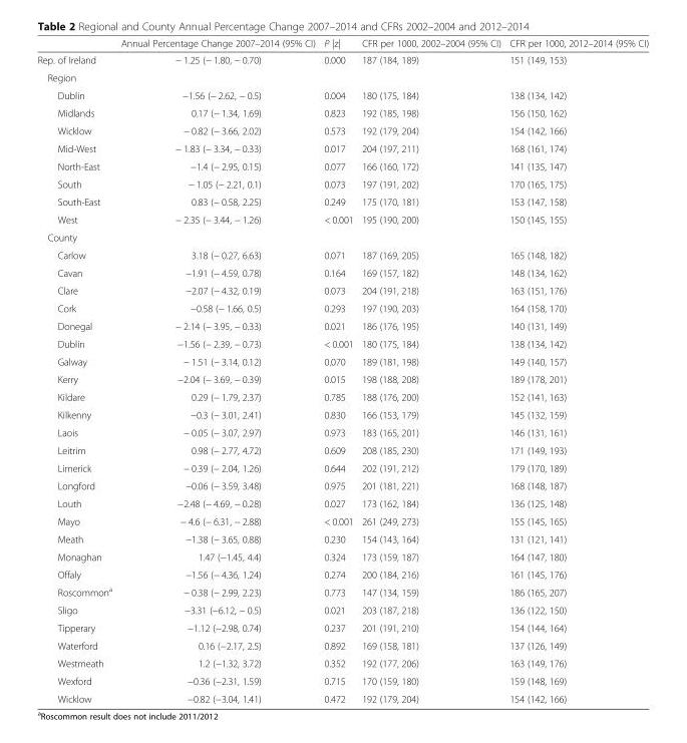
<table><thead><tr><td></td><td>Annual Percentage Change 2007–2014 (95% CI)</td><td>P |z|</td><td>CFR per 1000, 2002–2004 (95% CI)</td><td>CFR per 1000, 2012–2014 (95% CI)</td></tr></thead><tbody><tr><td>Rep. of Ireland</td><td>− 1.25 (− 1.80, − 0.70)</td><td>0.000</td><td>187 (184, 189)</td><td>151 (149, 153)</td></tr><tr><td colspan="5">Region</td></tr><tr><td>Dublin</td><td>−1.56 (− 2.62, − 0.5)</td><td>0.004</td><td>180 (175, 184)</td><td>138 (134, 142)</td></tr><tr><td>Midlands</td><td>0.17 (− 1.34, 1.69)</td><td>0.823</td><td>192 (185, 198)</td><td>156 (150, 162)</td></tr><tr><td>Wicklow</td><td>− 0.82 (− 3.66, 2.02)</td><td>0.573</td><td>192 (179, 204)</td><td>154 (142, 166)</td></tr><tr><td>Mid-West</td><td>− 1.83 (− 3.34, − 0.33)</td><td>0.017</td><td>204 (197, 211)</td><td>168 (161, 174)</td></tr><tr><td>North-East</td><td>−1.4 (− 2.95, 0.15)</td><td>0.077</td><td>166 (160, 172)</td><td>141 (135, 147)</td></tr><tr><td>South</td><td>− 1.05 (− 2.21, 0.1)</td><td>0.073</td><td>197 (191, 202)</td><td>170 (165, 175)</td></tr><tr><td>South-East</td><td>0.83 (− 0.58, 2.25)</td><td>0.249</td><td>175 (170, 181)</td><td>153 (147, 158)</td></tr><tr><td>West</td><td>− 2.35 (− 3.44, − 1.26)</td><td>&lt; 0.001</td><td>195 (190, 200)</td><td>150 (145, 155)</td></tr><tr><td colspan="5">County</td></tr><tr><td>Carlow</td><td>3.18 (− 0.27, 6.63)</td><td>0.071</td><td>187 (169, 205)</td><td>165 (148, 182)</td></tr><tr><td>Cavan</td><td>−1.91 (− 4.59, 0.78)</td><td>0.164</td><td>169 (157, 182)</td><td>148 (134, 162)</td></tr><tr><td>Clare</td><td>−2.07 (− 4.32, 0.19)</td><td>0.073</td><td>204 (191, 218)</td><td>163 (151, 176)</td></tr><tr><td>Cork</td><td>−0.58 (− 1.66, 0.5)</td><td>0.293</td><td>197 (190, 203)</td><td>164 (158, 170)</td></tr><tr><td>Donegal</td><td>− 2.14 (− 3.95, − 0.33)</td><td>0.021</td><td>186 (176, 195)</td><td>140 (131, 149)</td></tr><tr><td>Dublin</td><td>−1.56 (− 2.39, − 0.73)</td><td>&lt; 0.001</td><td>180 (175, 184)</td><td>138 (134, 142)</td></tr><tr><td>Galway</td><td>− 1.51 (− 3.14, 0.12)</td><td>0.070</td><td>189 (181, 198)</td><td>149 (140, 157)</td></tr><tr><td>Kerry</td><td>−2.04 (− 3.69, − 0.39)</td><td>0.015</td><td>198 (188, 208)</td><td>189 (178, 201)</td></tr><tr><td>Kildare</td><td>0.29 (− 1.79, 2.37)</td><td>0.785</td><td>188 (176, 200)</td><td>152 (141, 163)</td></tr><tr><td>Kilkenny</td><td>−0.3 (− 3.01, 2.41)</td><td>0.830</td><td>166 (153, 179)</td><td>145 (132, 159)</td></tr><tr><td>Laois</td><td>− 0.05 (− 3.07, 2.97)</td><td>0.973</td><td>183 (165, 201)</td><td>146 (131, 161)</td></tr><tr><td>Leitrim</td><td>0.98 (− 2.77, 4.72)</td><td>0.609</td><td>208 (185, 230)</td><td>171 (149, 193)</td></tr><tr><td>Limerick</td><td>− 0.39 (− 2.04, 1.26)</td><td>0.644</td><td>202 (191, 212)</td><td>179 (170, 189)</td></tr><tr><td>Longford</td><td>−0.06 (− 3.59, 3.48)</td><td>0.975</td><td>201 (181, 221)</td><td>168 (148, 187)</td></tr><tr><td>Louth</td><td>−2.48 (− 4.69, − 0.28)</td><td>0.027</td><td>173 (162, 184)</td><td>136 (125, 148)</td></tr><tr><td>Mayo</td><td>− 4.6 (− 6.31, − 2.88)</td><td>&lt; 0.001</td><td>261 (249, 273)</td><td>155 (145, 165)</td></tr><tr><td>Meath</td><td>−1.38 (− 3.65, 0.88)</td><td>0.230</td><td>154 (143, 164)</td><td>131 (121, 141)</td></tr><tr><td>Monaghan</td><td>1.47 (−1.45, 4.4)</td><td>0.324</td><td>173 (159, 187)</td><td>164 (147, 180)</td></tr><tr><td>Offaly</td><td>−1.56 (− 4.36, 1.24)</td><td>0.274</td><td>200 (184, 216)</td><td>161 (145, 176)</td></tr><tr><td>Roscommon<sup>a</sup></td><td>− 0.38 (− 2.99, 2.23)</td><td>0.773</td><td>147 (134, 159)</td><td>186 (165, 207)</td></tr><tr><td>Sligo</td><td>−3.31 (−6.12, − 0.5)</td><td>0.021</td><td>203 (187, 218)</td><td>136 (122, 150)</td></tr><tr><td>Tipperary</td><td>−1.12 (−2.98, 0.74)</td><td>0.237</td><td>201 (191, 210)</td><td>154 (144, 164)</td></tr><tr><td>Waterford</td><td>0.16 (−2.17, 2.5)</td><td>0.892</td><td>169 (158, 181)</td><td>137 (126, 149)</td></tr><tr><td>Westmeath</td><td>1.2 (−1.32, 3.72)</td><td>0.352</td><td>192 (177, 206)</td><td>163 (149, 176)</td></tr><tr><td>Wexford</td><td>−0.36 (−2.31, 1.59)</td><td>0.715</td><td>170 (159, 180)</td><td>159 (148, 169)</td></tr><tr><td>Wicklow</td><td>−0.82 (−3.04, 1.41)</td><td>0.472</td><td>192 (179, 204)</td><td>154 (142, 166)</td></tr></tbody></table>